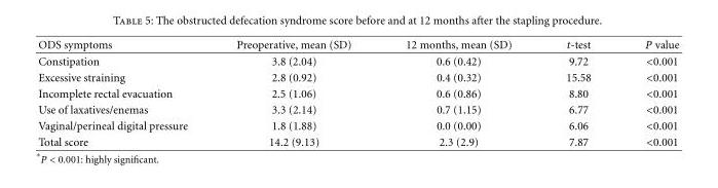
<table><thead><tr><td>ODS symptoms</td><td>Preoperative, mean (SD)</td><td>12 months, mean (SD)</td><td>t-test</td><td>P value</td></tr></thead><tbody><tr><td>Constipation</td><td>3.8 (2.04)</td><td>0.6 (0.42)</td><td>9.72</td><td>&lt;0.001</td></tr><tr><td>Excessive straining</td><td>2.8 (0.92)</td><td>0.4 (0.32)</td><td>15.58</td><td>&lt;0.001</td></tr><tr><td>Incomplete rectal evacuation</td><td>2.5 (1.06)</td><td>0.6 (0.86)</td><td>8.80</td><td>&lt;0.001</td></tr><tr><td>Use of laxatives/enemas</td><td>3.3 (2.14)</td><td>0.7 (1.15)</td><td>6.77</td><td>&lt;0.001</td></tr><tr><td>Vaginal/perineal digital pressure</td><td>1.8 (1.88)</td><td>0.0 (0.00)</td><td>6.06</td><td>&lt;0.001</td></tr><tr><td>Total score</td><td>14.2 (9.13)</td><td>2.3 (2.9)</td><td>7.87</td><td>&lt;0.001</td></tr></tbody></table>